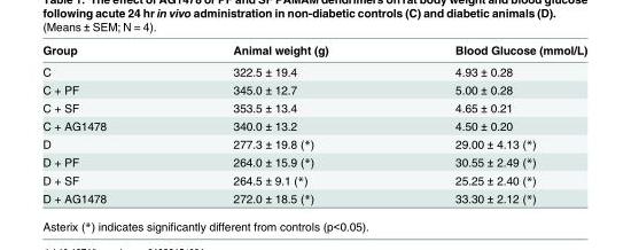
<table><thead><tr><td>Group</td><td>Animal weight (g)</td><td>Blood Glucose (mmol/L)</td></tr></thead><tbody><tr><td>C</td><td>322.5 ± 19.4</td><td>4.93 ± 0.28</td></tr><tr><td>C + PF</td><td>345.0 ± 12.7</td><td>5.00 ± 0.28</td></tr><tr><td>C + SF</td><td>353.5 ± 13.4</td><td>4.65 ± 0.21</td></tr><tr><td>C + AG1478</td><td>340.0 ± 13.2</td><td>4.50 ± 0.20</td></tr><tr><td>D</td><td>277.3 ± 19.8 (*)</td><td>29.00 ± 4.13 (*)</td></tr><tr><td>D + PF</td><td>264.0 ± 15.9 (*)</td><td>30.55 ± 2.49 (*)</td></tr><tr><td>D + SF</td><td>264.5 ± 9.1 (*)</td><td>25.25 ± 2.40 (*)</td></tr><tr><td>D + AG1478</td><td>272.0 ± 18.5 (*)</td><td>33.30 ± 2.12 (*)</td></tr></tbody></table>